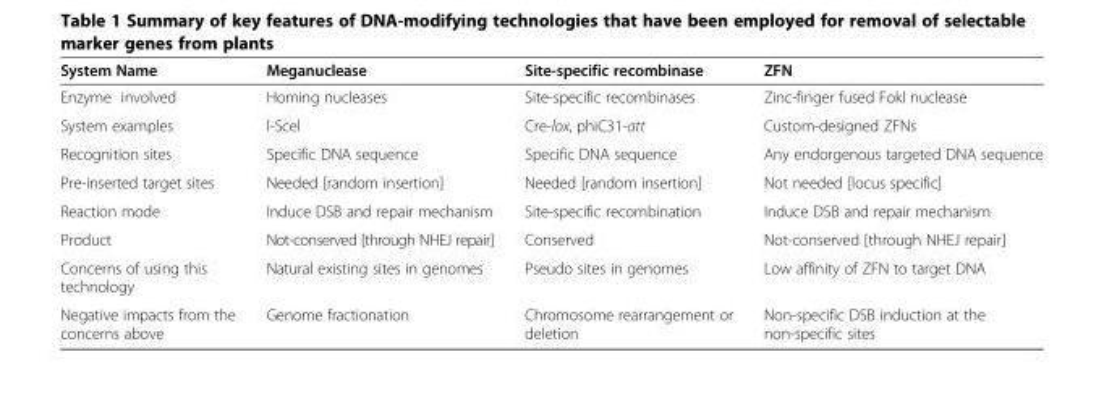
<table><thead><tr><td>System Name</td><td>Meganuclease</td><td>Site-specific recombinase</td><td>ZFN</td></tr></thead><tbody><tr><td>Enzyme involved</td><td>Homing nucleases</td><td>Site-specific recombinases</td><td>Zinc-finger fused Fokl nuclease</td></tr><tr><td>System examples</td><td>l-Scel</td><td>Cre-lox, phiC31-att</td><td>Custom-designed ZFNs</td></tr><tr><td>Recognition sites</td><td>Specific DNA sequence</td><td>Specific DNA sequence</td><td>Any endorgenous targeted DNA sequence</td></tr><tr><td>Pre-inserted target sites</td><td>Needed [random insertion]</td><td>Needed [random insertion]</td><td>Not needed [locus specific]</td></tr><tr><td>Reaction mode</td><td>Induce DSB and repair mechanism</td><td>Site-specific recombination</td><td>Induce DSB and repair mechanism</td></tr><tr><td>Product</td><td>Not-conserved [through NHEJ repair]</td><td>Conserved</td><td>Not-conserved [through NHEJ repair]</td></tr><tr><td>Concerns of using this technology</td><td>Natural existing sites in genomes</td><td>Pseudo sites in genomes</td><td>Low affinity of ZFN to target DNA</td></tr><tr><td>Negative impacts from the concerns above</td><td>Genome fractionation</td><td>Chromosome rearrangement or deletion</td><td>Non-specific DSB induction at the non-specific sites</td></tr></tbody></table>